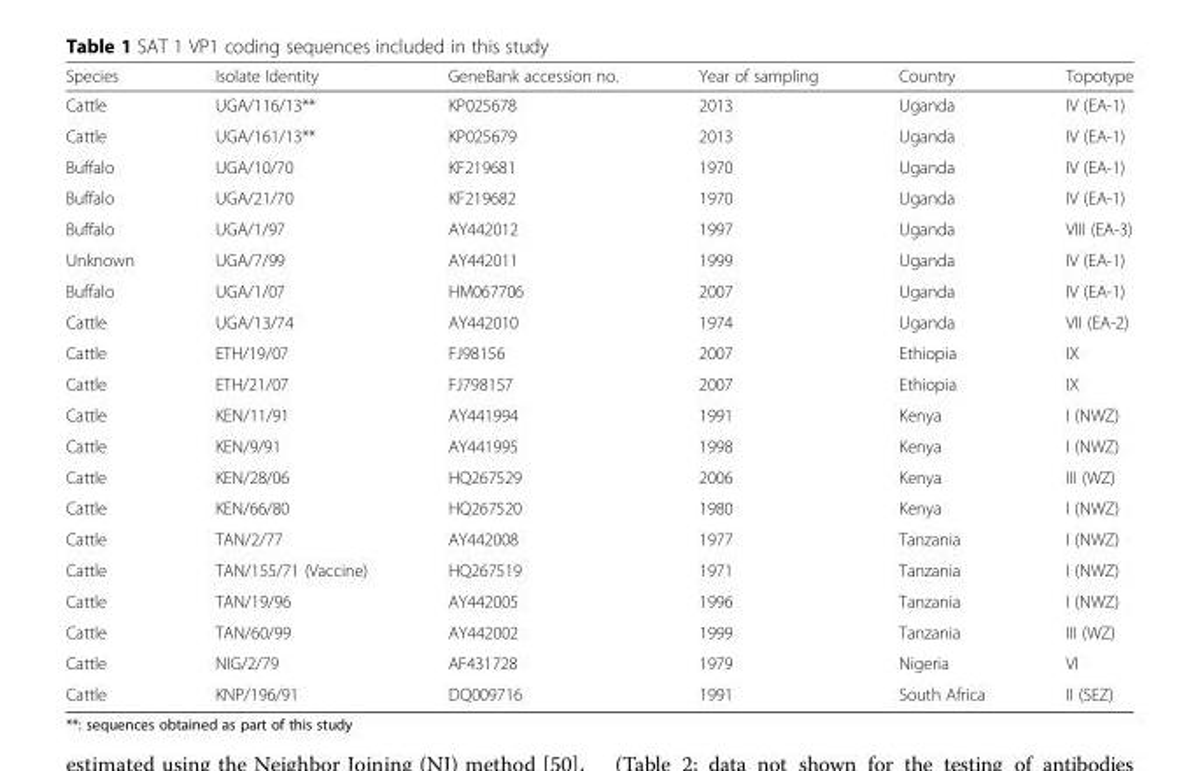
<table><thead><tr><td>Species</td><td>Isolate Identity</td><td>GeneBank accession no.</td><td>Year of sampling</td><td>Country</td><td>Topotype</td></tr></thead><tbody><tr><td>Cattle</td><td>UGA/116/13**</td><td>KP025678</td><td>2013</td><td>Uganda</td><td>IV (EA-1)</td></tr><tr><td>Cattle</td><td>UGA/161/13**</td><td>KP025679</td><td>2013</td><td>Uganda</td><td>IV (EA-1)</td></tr><tr><td>Buffalo</td><td>UGA/10/70</td><td>KF219681</td><td>1970</td><td>Uganda</td><td>IV (EA-1)</td></tr><tr><td>Buffalo</td><td>UGA/21/70</td><td>KF219682</td><td>1970</td><td>Uganda</td><td>IV (EA-1)</td></tr><tr><td>Buffalo</td><td>UGA/1/97</td><td>AY442012</td><td>1997</td><td>Uganda</td><td>VIII (EA-3)</td></tr><tr><td>Unknown</td><td>UGA/7/99</td><td>AY442011</td><td>1999</td><td>Uganda</td><td>IV (EA-1)</td></tr><tr><td>Buffalo</td><td>UGA/1/07</td><td>HM067706</td><td>2007</td><td>Uganda</td><td>IV (EA-1)</td></tr><tr><td>Cattle</td><td>UGA/13/74</td><td>AY442010</td><td>1974</td><td>Uganda</td><td>VII (EA-2)</td></tr><tr><td>Cattle</td><td>ETH/19/07</td><td>FJ98156</td><td>2007</td><td>Ethiopia</td><td>IX</td></tr><tr><td>Cattle</td><td>ETH/21/07</td><td>FJ798157</td><td>2007</td><td>Ethiopia</td><td>IX</td></tr><tr><td>Cattle</td><td>KEN/11/91</td><td>AY441994</td><td>1991</td><td>Kenya</td><td>I (NWZ)</td></tr><tr><td>Cattle</td><td>KEN/9/91</td><td>AY441995</td><td>1998</td><td>Kenya</td><td>I (NWZ)</td></tr><tr><td>Cattle</td><td>KEN/28/06</td><td>HQ267529</td><td>2006</td><td>Kenya</td><td>III (WZ)</td></tr><tr><td>Cattle</td><td>KEN/66/80</td><td>HQ267520</td><td>1980</td><td>Kenya</td><td>I (NWZ)</td></tr><tr><td>Cattle</td><td>TAN/2/77</td><td>AY442008</td><td>1977</td><td>Tanzania</td><td>I (NWZ)</td></tr><tr><td>Cattle</td><td>TAN/155/71 (Vaccine)</td><td>HQ267519</td><td>1971</td><td>Tanzania</td><td>I (NWZ)</td></tr><tr><td>Cattle</td><td>TAN/19/96</td><td>AY442005</td><td>1996</td><td>Tanzania</td><td>I (NWZ)</td></tr><tr><td>Cattle</td><td>TAN/60/99</td><td>AY442002</td><td>1999</td><td>Tanzania</td><td>III (WZ)</td></tr><tr><td>Cattle</td><td>NIG/2/79</td><td>AF431728</td><td>1979</td><td>Nigeria</td><td>VI</td></tr><tr><td>Cattle</td><td>KNP/196/91</td><td>DQ009716</td><td>1991</td><td>South Africa</td><td>II (SEZ)</td></tr></tbody></table>